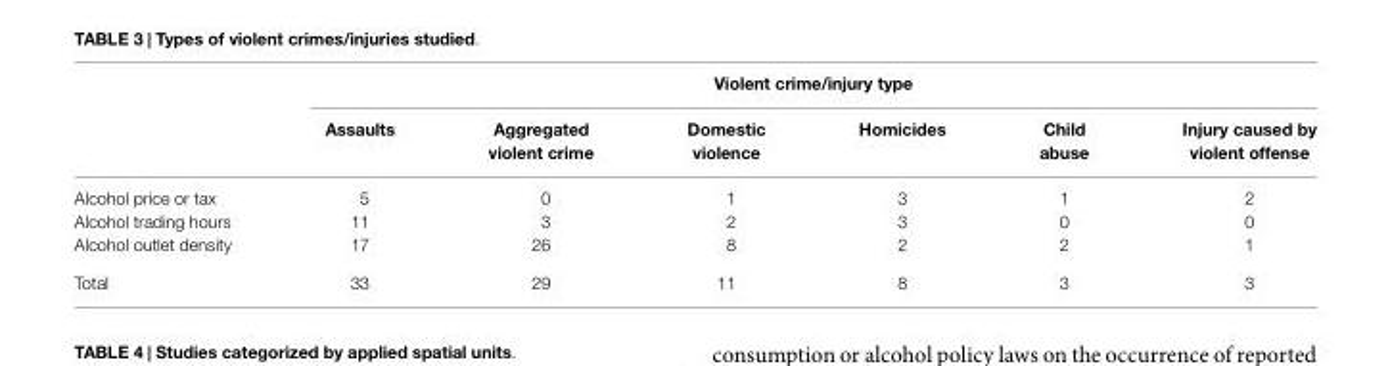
<table><thead><tr><td rowspan="2"></td><td colspan="6">Violent crime/injury type</td></tr><tr><td>Assaults</td><td>Aggregated violent crime</td><td>Domestic violence</td><td>Homicides</td><td>Child abuse</td><td>Injury caused by violent offense</td></tr></thead><tbody><tr><td>Alcohol price or tax</td><td>5</td><td>0</td><td>1</td><td>3</td><td>1</td><td>2</td></tr><tr><td>Alcohol trading hours</td><td>11</td><td>3</td><td>2</td><td>3</td><td>0</td><td>0</td></tr><tr><td>Alcohol outlet density</td><td>17</td><td>26</td><td>8</td><td>2</td><td>2</td><td>1</td></tr><tr><td>Total</td><td>33</td><td>29</td><td>11</td><td>8</td><td>3</td><td>3</td></tr></tbody></table>